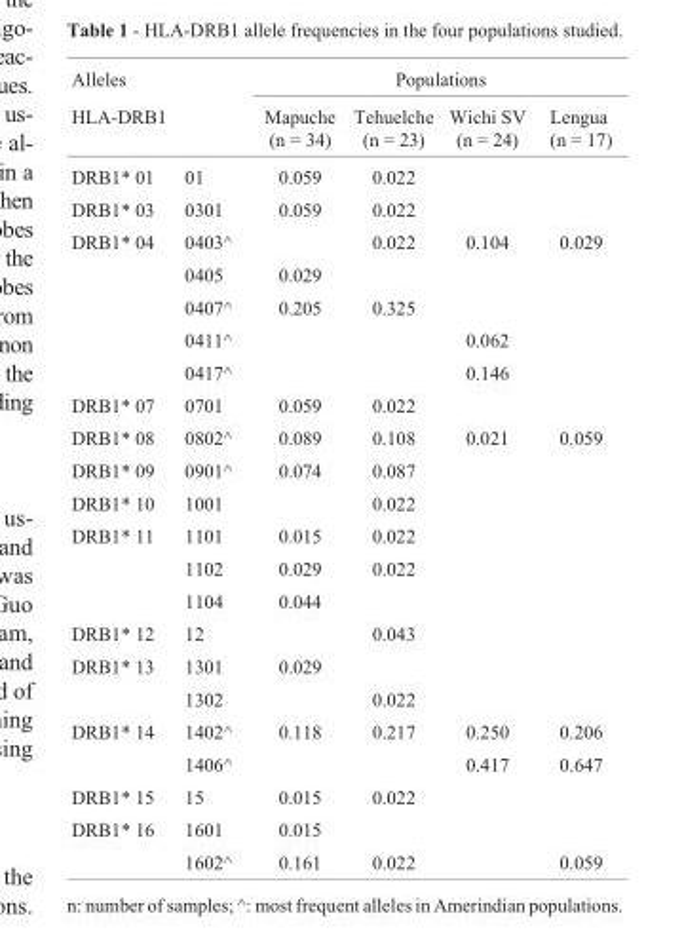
<table><thead><tr><td rowspan="2">Alleles HLA-DRB1</td><td rowspan="2"></td><td colspan="4">Populations</td></tr><tr><td>Mapuche (n = 34)</td><td>Tehuelche (n = 23)</td><td>Wichi SV (n = 24)</td><td>Lengua (n = 17)</td></tr></thead><tbody><tr><td>DRB1* 01</td><td>01</td><td>0.059</td><td>0.022</td><td></td><td></td></tr><tr><td>DRB1* 03</td><td>0301</td><td>0.059</td><td>0.022</td><td></td><td></td></tr><tr><td rowspan="5">DRB1* 04</td><td>0403^</td><td></td><td>0.022</td><td>0.104</td><td>0.029</td></tr><tr><td>0405</td><td>0.029</td><td></td><td></td><td></td></tr><tr><td>0407^</td><td>0.205</td><td>0.325</td><td></td><td></td></tr><tr><td>0411^</td><td></td><td></td><td>0.062</td><td></td></tr><tr><td>0417^</td><td></td><td></td><td>0.146</td><td></td></tr><tr><td>DRB1* 07</td><td>0701</td><td>0.059</td><td>0.022</td><td></td><td></td></tr><tr><td>DRB1* 08</td><td>0802^</td><td>0.089</td><td>0.108</td><td>0.021</td><td>0.059</td></tr><tr><td>DRB1* 09</td><td>0901^</td><td>0.074</td><td>0.087</td><td></td><td></td></tr><tr><td>DRB1* 10</td><td>1001</td><td></td><td>0.022</td><td></td><td></td></tr><tr><td rowspan="3">DRB1* 11</td><td>1101</td><td>0.015</td><td>0.022</td><td></td><td></td></tr><tr><td>1102</td><td>0.029</td><td>0.022</td><td></td><td></td></tr><tr><td>1104</td><td>0.044</td><td></td><td></td><td></td></tr><tr><td>DRB1* 12</td><td>12</td><td></td><td>0.043</td><td></td><td></td></tr><tr><td rowspan="2">DRB1* 13</td><td>1301</td><td>0.029</td><td></td><td></td><td></td></tr><tr><td>1302</td><td></td><td>0.022</td><td></td><td></td></tr><tr><td rowspan="2">DRB1* 14</td><td>1402^</td><td>0.118</td><td>0.217</td><td>0.250</td><td>0.206</td></tr><tr><td>1406^</td><td></td><td></td><td>0.417</td><td>0.647</td></tr><tr><td>DRB1* 15</td><td>15</td><td>0.015</td><td>0.022</td><td></td><td></td></tr><tr><td rowspan="2">DRB1* 16</td><td>1601</td><td>0.015</td><td></td><td></td><td></td></tr><tr><td>1602^</td><td>0.161</td><td>0.022</td><td></td><td>0.059</td></tr></tbody></table>